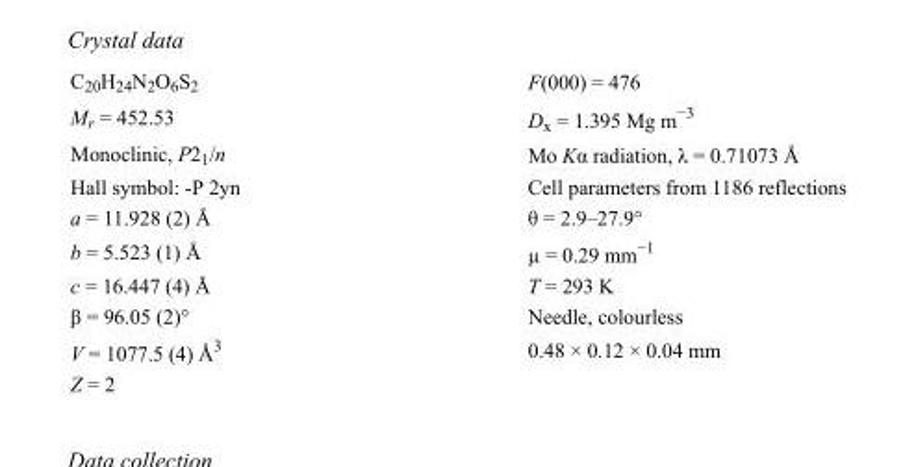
<table><tbody><tr><td>C<sub>20</sub>H<sub>24</sub>N<sub>2</sub>O<sub>6</sub>S<sub>2</sub></td><td>F(000) = 476</td></tr><tr><td>M<sub>r</sub> = 452.53</td><td>D<sub>x</sub> = 1.395 Mg m<sup>−3</sup></td></tr><tr><td>Monoclinic, P2<sub>1</sub>/n</td><td>Mo Kα radiation, λ = 0.71073 Å</td></tr><tr><td>Hall symbol: -P 2yn</td><td>Cell parameters from 1186 reflections</td></tr><tr><td>a = 11.928 (2) Å</td><td>θ = 2.9–27.9°</td></tr><tr><td>b = 5.523 (1) Å</td><td>µ = 0.29 mm<sup>−1</sup></td></tr><tr><td>c = 16.447 (4) Å</td><td>T = 293 K</td></tr><tr><td>β = 96.05 (2)°</td><td>Needle, colourless</td></tr><tr><td>V = 1077.5 (4) Å<sup>3</sup></td><td>0.48 × 0.12 × 0.04 mm</td></tr><tr><td>Z = 2</td><td></td></tr></tbody></table>